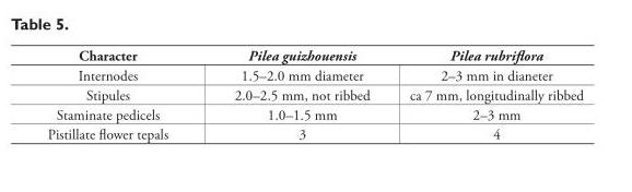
<table><thead><tr><td>Character</td><td>Pilea guizhouensis</td><td>Pilea rubrifl ora</td></tr></thead><tbody><tr><td>Internodes</td><td>1.5–2.0 mm diameter</td><td>2–3 mm in dianeter</td></tr><tr><td>Stipules</td><td>2.0–2.5 mm, not ribbed</td><td>ca 7 mm, longitudinally ribbed</td></tr><tr><td>Staminate pedicels</td><td>1.0–1.5 mm</td><td>2–3 mm</td></tr><tr><td>Pistillate fl ower tepals</td><td>3</td><td>4</td></tr></tbody></table>